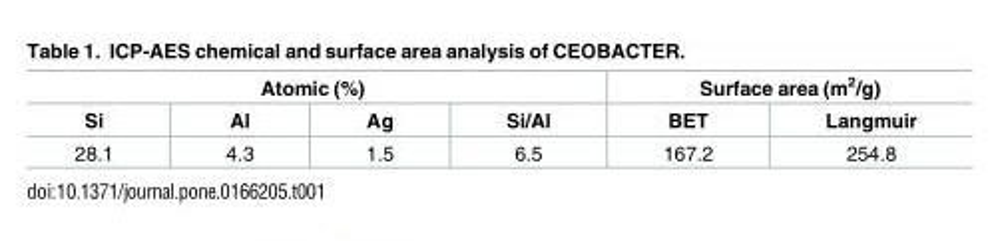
<table><thead><tr><td colspan="4">Atomic (%)</td><td colspan="2">Surface area (m<sup>2</sup>/g)</td></tr><tr><td>Si</td><td>Al</td><td>Ag</td><td>Si/Al</td><td>BET</td><td>Langmuir</td></tr></thead><tbody><tr><td>28.1</td><td>4.3</td><td>1.5</td><td>6.5</td><td>167.2</td><td>254.8</td></tr></tbody></table>